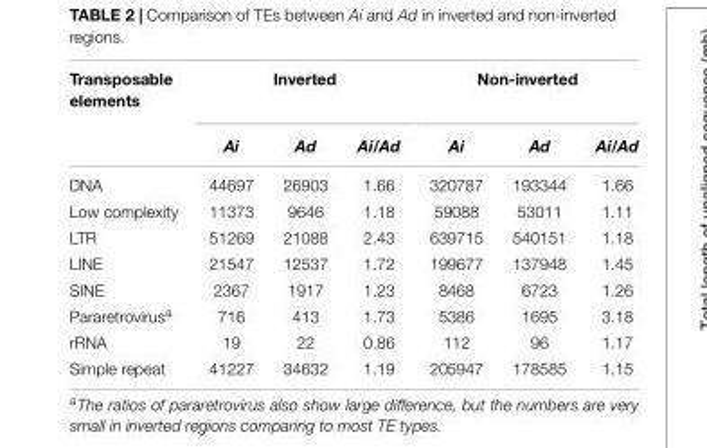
<table><thead><tr><td rowspan="2">Transposable elements</td><td colspan="3">Inverted</td><td colspan="3">Non-inverted</td></tr><tr><td>Ai</td><td>Ad</td><td>Ai/Ad</td><td>Ai</td><td>Ad</td><td>Ai/Ad</td></tr></thead><tbody><tr><td>DNA</td><td>44697</td><td>26903</td><td>1.66</td><td>320787</td><td>193344</td><td>1.66</td></tr><tr><td>Low complexity</td><td>11373</td><td>9646</td><td>1.18</td><td>59088</td><td>53011</td><td>1.11</td></tr><tr><td>LTR</td><td>51269</td><td>21088</td><td>2.43</td><td>639715</td><td>540151</td><td>1.18</td></tr><tr><td>LINE</td><td>21547</td><td>12537</td><td>1.72</td><td>199677</td><td>137948</td><td>1.45</td></tr><tr><td>SINE</td><td>2367</td><td>1917</td><td>1.23</td><td>8468</td><td>6723</td><td>1.26</td></tr><tr><td>Pararetrovirus<sup>a</sup></td><td>716</td><td>413</td><td>1.73</td><td>5386</td><td>1695</td><td>3.18</td></tr><tr><td>rRNA</td><td>19</td><td>22</td><td>0.86</td><td>112</td><td>96</td><td>1.17</td></tr><tr><td>Simple repeat</td><td>41227</td><td>34632</td><td>1.19</td><td>205947</td><td>178585</td><td>1.15</td></tr></tbody></table>